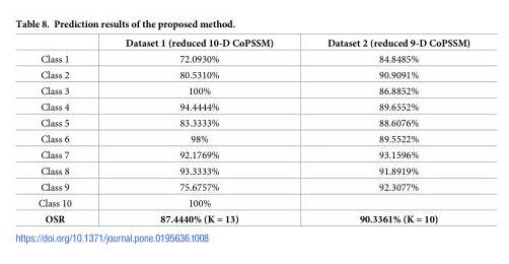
<table><thead><tr><td></td><td>Dataset 1 (reduced 10-D CoPSSM)</td><td>Dataset 2 (reduced 9-D CoPSSM)</td></tr></thead><tbody><tr><td>Class 1</td><td>72.0930%</td><td>84.8485%</td></tr><tr><td>Class 2</td><td>80.5310%</td><td>90.9091%</td></tr><tr><td>Class 3</td><td>100%</td><td>86.8852%</td></tr><tr><td>Class 4</td><td>94.4444%</td><td>89.6552%</td></tr><tr><td>Class 5</td><td>83.3333%</td><td>88.6076%</td></tr><tr><td>Class 6</td><td>98%</td><td>89.5522%</td></tr><tr><td>Class 7</td><td>92.1769%</td><td>93.1596%</td></tr><tr><td>Class 8</td><td>93.3333%</td><td>91.8919%</td></tr><tr><td>Class 9</td><td>75.6757%</td><td>92.3077%</td></tr><tr><td>Class 10</td><td>100%</td><td></td></tr><tr><td>OSR</td><td>87.4440% (K = 13)</td><td>90.3361% (K = 10)</td></tr></tbody></table>